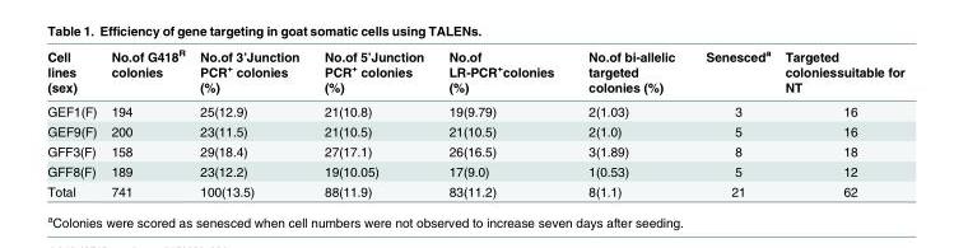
<table><thead><tr><td>Cell lines (sex)</td><td>No.of G418<sup>R</sup> colonies</td><td>No.of 3’Junction PCR<sup>+</sup> colonies (%)</td><td>No.of 5’Junction PCR<sup>+</sup> colonies (%)</td><td>No.of LR-PCR<sup>+</sup>colonies (%)</td><td>No.of bi-allelic targeted colonies (%)</td><td>Senesced<sup>a</sup></td><td>Targeted coloniessuitable for NT</td></tr></thead><tbody><tr><td>GEF1(F)</td><td>194</td><td>25(12.9)</td><td>21(10.8)</td><td>19(9.79)</td><td>2(1.03)</td><td>3</td><td>16</td></tr><tr><td>GEF9(F)</td><td>200</td><td>23(11.5)</td><td>21(10.5)</td><td>21(10.5)</td><td>2(1.0)</td><td>5</td><td>16</td></tr><tr><td>GFF3(F)</td><td>158</td><td>29(18.4)</td><td>27(17.1)</td><td>26(16.5)</td><td>3(1.89)</td><td>8</td><td>18</td></tr><tr><td>GFF8(F)</td><td>189</td><td>23(12.2)</td><td>19(10.05)</td><td>17(9.0)</td><td>1(0.53)</td><td>5</td><td>12</td></tr><tr><td>Total</td><td>741</td><td>100(13.5)</td><td>88(11.9)</td><td>83(11.2)</td><td>8(1.1)</td><td>21</td><td>62</td></tr></tbody></table>